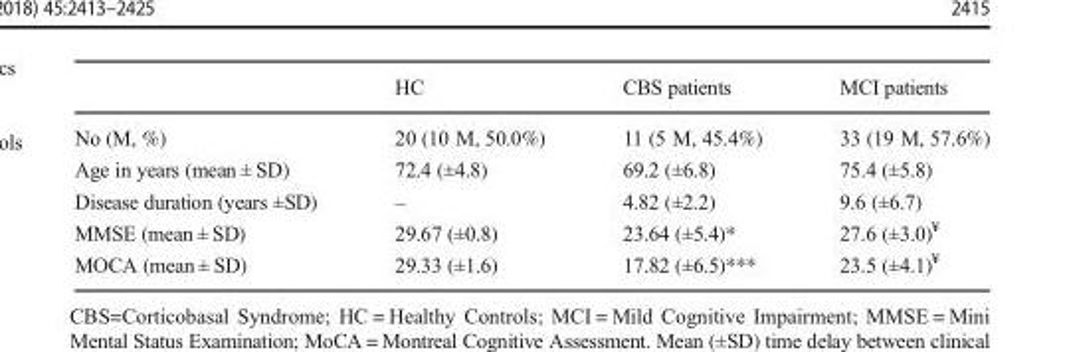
<table><thead><tr><td></td><td>HC</td><td>CBS patients</td><td>MCI patients</td></tr></thead><tbody><tr><td>No (M, %)</td><td>20 (10 M, 50.0%)</td><td>11 (5 M, 45.4%)</td><td>33 (19 M, 57.6%)</td></tr><tr><td>Age in years (mean ± SD)</td><td>72.4 (±4.8)</td><td>69.2 (±6.8)</td><td>75.4 (±5.8)</td></tr><tr><td>Disease duration (years ±SD)</td><td>–</td><td>4.82 (±2.2)</td><td>9.6 (±6.7)</td></tr><tr><td>MMSE (mean ± SD)</td><td>29.67 (±0.8)</td><td>23.64 (±5.4)*</td><td>27.6 (±3.0)<sup>¥</sup></td></tr><tr><td>MOCA (mean ± SD)</td><td>29.33 (±1.6)</td><td>17.82 (±6.5)***</td><td>23.5 (±4.1)<sup>¥</sup></td></tr></tbody></table>